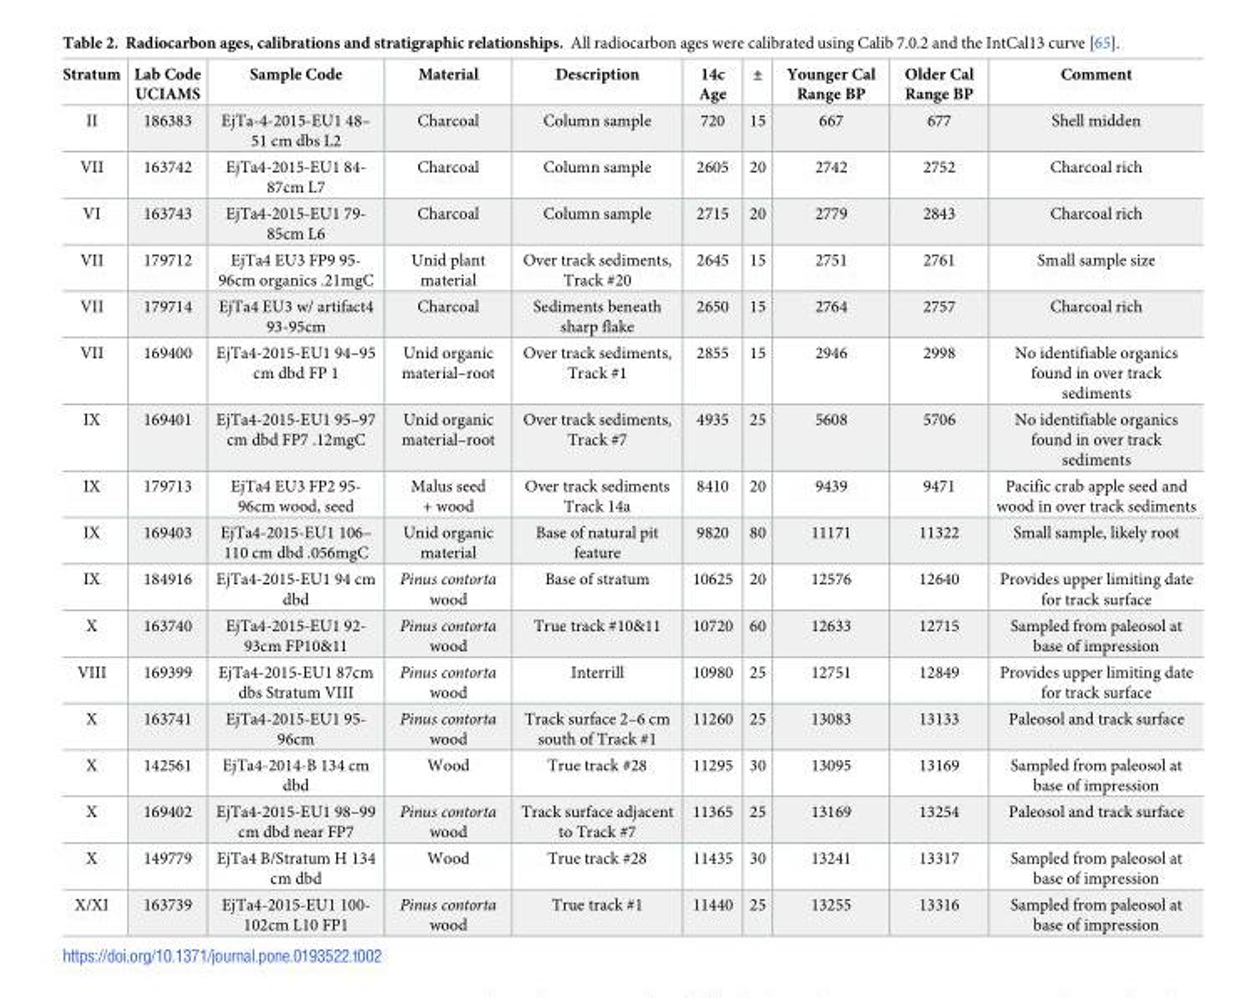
<table><thead><tr><td>Stratum</td><td>Lab Code UCIAMS</td><td>Sample Code</td><td>Material</td><td>Description</td><td>14c Age</td><td>±</td><td>Younger Cal Range BP</td><td>Older Cal Range BP</td><td>Comment</td></tr></thead><tbody><tr><td>II</td><td>186383</td><td>EjTa-4-2015-EU1 48– 51 cm dbs L2</td><td>Charcoal</td><td>Column sample</td><td>720</td><td>15</td><td>667</td><td>677</td><td>Shell midden</td></tr><tr><td>VII</td><td>163742</td><td>EjTa4-2015-EU1 84- 87cm L7</td><td>Charcoal</td><td>Column sample</td><td>2605</td><td>20</td><td>2742</td><td>2752</td><td>Charcoal rich</td></tr><tr><td>VI</td><td>163743</td><td>EjTa4-2015-EU1 79- 85cm L6</td><td>Charcoal</td><td>Column sample</td><td>2715</td><td>20</td><td>2779</td><td>2843</td><td>Charcoal rich</td></tr><tr><td>VII</td><td>179712</td><td>EjTa4 EU3 FP9 95- 96cm organics .21mgC</td><td>Unid plant material</td><td>Over track sediments, Track #20</td><td>2645</td><td>15</td><td>2751</td><td>2761</td><td>Small sample size</td></tr><tr><td>VII</td><td>179714</td><td>EjTa4 EU3 w/ artifact4 93-95cm</td><td>Charcoal</td><td>Sediments beneath sharp flake</td><td>2650</td><td>15</td><td>2764</td><td>2757</td><td>Charcoal rich</td></tr><tr><td>VII</td><td>169400</td><td>EjTa4-2015-EU1 94–95 cm dbd FP 1</td><td>Unid organic material–root</td><td>Over track sediments, Track #1</td><td>2855</td><td>15</td><td>2946</td><td>2998</td><td>No identifiable organics found in over track sediments</td></tr><tr><td>IX</td><td>169401</td><td>EjTa4-2015-EU1 95–97 cm dbd FP7 .12mgC</td><td>Unid organic material–root</td><td>Over track sediments, Track #7</td><td>4935</td><td>25</td><td>5608</td><td>5706</td><td>No identifiable organics found in over track sediments</td></tr><tr><td>IX</td><td>179713</td><td>EjTa4 EU3 FP2 95- 96cm wood, seed</td><td>Malus seed + wood</td><td>Over track sediments Track 14a</td><td>8410</td><td>20</td><td>9439</td><td>9471</td><td>Pacific crab apple seed and wood in over track sediments</td></tr><tr><td>IX</td><td>169403</td><td>EjTa4-2015-EU1 106– 110 cm dbd .056mgC</td><td>Unid organic material</td><td>Base of natural pit feature</td><td>9820</td><td>80</td><td>11171</td><td>11322</td><td>Small sample, likely root</td></tr><tr><td>IX</td><td>184916</td><td>EjTa4-2015-EU1 94 cm dbd</td><td>Pinus contorta wood</td><td>Base of stratum</td><td>10625</td><td>20</td><td>12576</td><td>12640</td><td>Provides upper limiting date for track surface</td></tr><tr><td>X</td><td>163740</td><td>EjTa4-2015-EU1 92- 93cm FP10&amp;11</td><td>Pinus contorta wood</td><td>True track #10&amp;11</td><td>10720</td><td>60</td><td>12633</td><td>12715</td><td>Sampled from paleosol at base of impression</td></tr><tr><td>VIII</td><td>169399</td><td>EjTa4-2015-EU1 87cm dbs Stratum VIII</td><td>Pinus contorta wood</td><td>Interrill</td><td>10980</td><td>25</td><td>12751</td><td>12849</td><td>Provides upper limiting date for track surface</td></tr><tr><td>X</td><td>163741</td><td>EjTa4-2015-EU1 95- 96cm</td><td>Pinus contorta wood</td><td>Track surface 2–6 cm south of Track #1</td><td>11260</td><td>25</td><td>13083</td><td>13133</td><td>Paleosol and track surface</td></tr><tr><td>X</td><td>142561</td><td>EjTa4-2014-B 134 cm dbd</td><td>Wood</td><td>True track #28</td><td>11295</td><td>30</td><td>13095</td><td>13169</td><td>Sampled from paleosol at base of impression</td></tr><tr><td>X</td><td>169402</td><td>EjTa4-2015-EU1 98–99 cm dbd near FP7</td><td>Pinus contorta wood</td><td>Track surface adjacent to Track #7</td><td>11365</td><td>25</td><td>13169</td><td>13254</td><td>Paleosol and track surface</td></tr><tr><td>X</td><td>149779</td><td>EjTa4 B/Stratum H 134 cm dbd</td><td>Wood</td><td>True track #28</td><td>11435</td><td>30</td><td>13241</td><td>13317</td><td>Sampled from paleosol at base of impression</td></tr><tr><td>X/XI</td><td>163739</td><td>EjTa4-2015-EU1 100- 102cm L10 FP1</td><td>Pinus contorta wood</td><td>True track #1</td><td>11440</td><td>25</td><td>13255</td><td>13316</td><td>Sampled from paleosol at base of impression</td></tr></tbody></table>